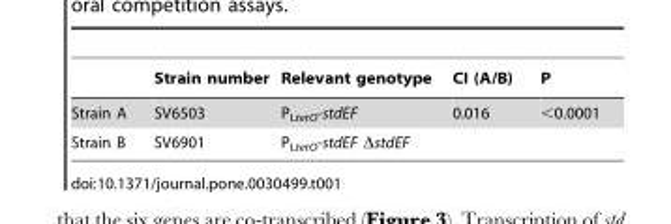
<table><thead><tr><td></td><td>Strain number</td><td>Relevant genotype</td><td>CI (A/B)</td><td>P</td></tr></thead><tbody><tr><td>Strain A</td><td>SV6503</td><td>P<sub>LtetO</sub>-stdEF</td><td>0.016</td><td>&lt;0.0001</td></tr><tr><td>Strain B</td><td>SV6901</td><td>P<sub>LtetO</sub>-stdEF ΔstdEF</td><td></td><td></td></tr></tbody></table>